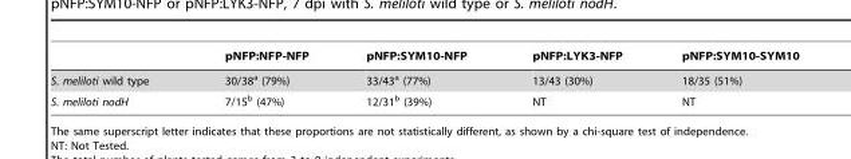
<table><thead><tr><td></td><td>pNFP:NFP-NFP</td><td>pNFP:SYM10-NFP</td><td>pNFP:LYK3-NFP</td><td>pNFP:SYM10-SYM10</td></tr></thead><tbody><tr><td>S. meliloti wild type</td><td>30/38<sup>a</sup> (79%)</td><td>33/43<sup>a</sup> (77%)</td><td>13/43 (30%)</td><td>18/35 (51%)</td></tr><tr><td>S. meliloti nodH</td><td>7/15<sup>b</sup> (47%)</td><td>12/31<sup>b</sup> (39%)</td><td>NT</td><td>NT</td></tr></tbody></table>